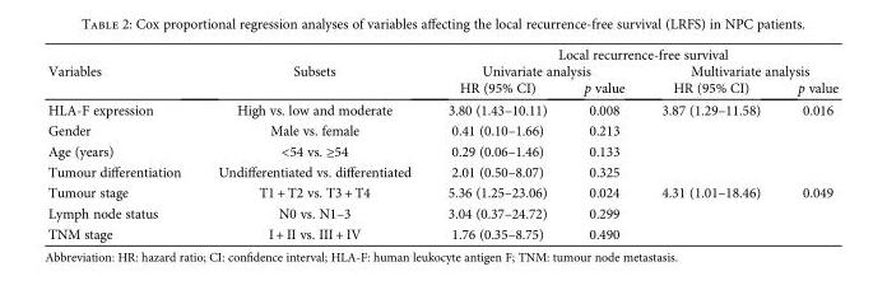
<table><thead><tr><td rowspan="3">Variables</td><td rowspan="3">Subsets</td><td colspan="4">Local recurrence-free survival</td></tr><tr><td colspan="2">Univariate analysis</td><td colspan="2">Multivariate analysis</td></tr><tr><td>HR (95% CI)</td><td>p value</td><td>HR (95% CI)</td><td>p value</td></tr></thead><tbody><tr><td>HLA-F expression</td><td>High vs. low and moderate</td><td>3.80 (1.43–10.11)</td><td>0.008</td><td>3.87 (1.29–11.58)</td><td>0.016</td></tr><tr><td>Gender</td><td>Male vs. female</td><td>0.41 (0.10–1.66)</td><td>0.213</td><td></td><td></td></tr><tr><td>Age (years)</td><td>&lt;54 vs. ≥54</td><td>0.29 (0.06–1.46)</td><td>0.133</td><td></td><td></td></tr><tr><td>Tumour differentiation</td><td>Undifferentiated vs. differentiated</td><td>2.01 (0.50–8.07)</td><td>0.325</td><td></td><td></td></tr><tr><td>Tumour stage</td><td>T1 + T2 vs. T3 + T4</td><td>5.36 (1.25–23.06)</td><td>0.024</td><td>4.31 (1.01–18.46)</td><td>0.049</td></tr><tr><td>Lymph node status</td><td>N0 vs. N1–3</td><td>3.04 (0.37–24.72)</td><td>0.299</td><td></td><td></td></tr><tr><td>TNM stage</td><td>I + II vs. III + IV</td><td>1.76 (0.35–8.75)</td><td>0.490</td><td></td><td></td></tr></tbody></table>